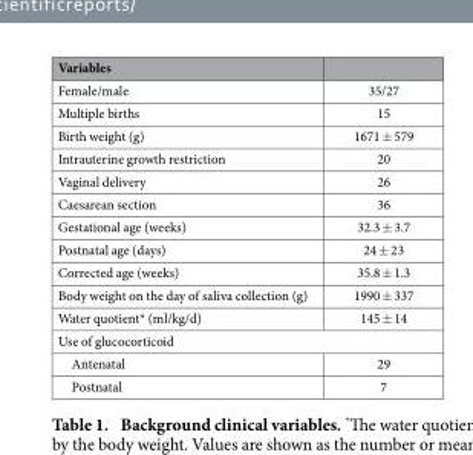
<table><thead><tr><td>Variables</td><td></td></tr></thead><tbody><tr><td>Female/male</td><td>35/27</td></tr><tr><td>Multiple births</td><td>15</td></tr><tr><td>Birth weight (g)</td><td>1671 ± 579</td></tr><tr><td>Intrauterine growth restriction</td><td>20</td></tr><tr><td>Vaginal delivery</td><td>26</td></tr><tr><td>Caesarean section</td><td>36</td></tr><tr><td>Gestational age (weeks)</td><td>32.3 ± 3.7</td></tr><tr><td>Postnatal age (days)</td><td>24 ± 23</td></tr><tr><td>Corrected age (weeks)</td><td>35.8 ± 1.3</td></tr><tr><td>Body weight on the day of saliva collection (g)</td><td>1990 ± 337</td></tr><tr><td>Water quotient* (ml/kg/d)</td><td>145 ± 14</td></tr><tr><td colspan="2">Use of glucocorticoid</td></tr><tr><td>Antenatal</td><td>29</td></tr><tr><td>Postnatal</td><td>7</td></tr></tbody></table>